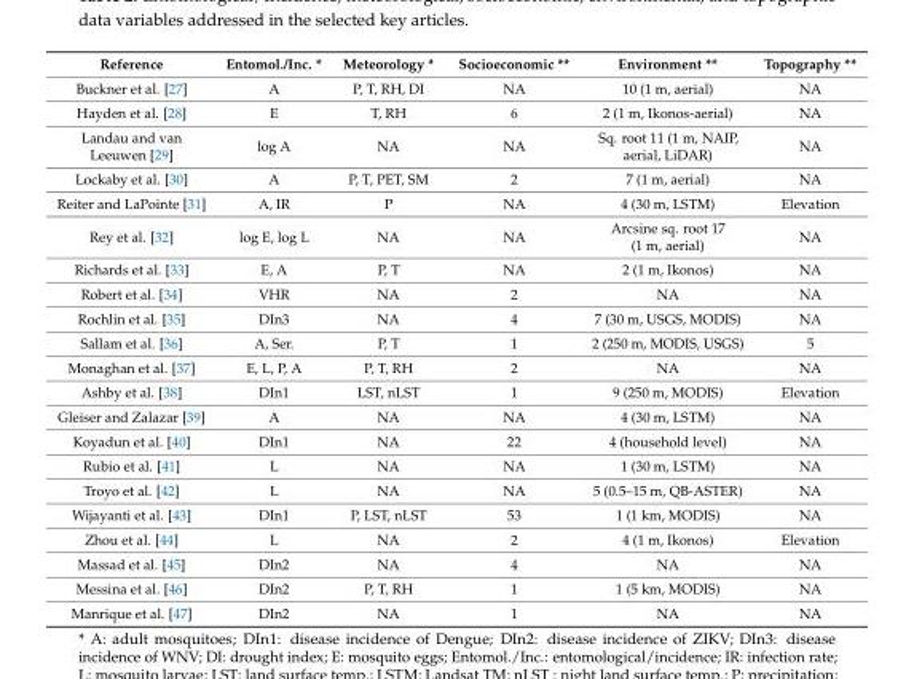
<table><thead><tr><td>Reference</td><td>Entomol./Inc. *</td><td>Meteorology *</td><td>Socioeconomic **</td><td>Environment **</td><td>Topography **</td></tr></thead><tbody><tr><td>Buckner et al. [27]</td><td>A</td><td>P, T, RH, DI</td><td>NA</td><td>10 (1 m, aerial)</td><td>NA</td></tr><tr><td>Hayden et al. [28]</td><td>E</td><td>T, RH</td><td>6</td><td>2 (1 m, Ikonos-aerial)</td><td>NA</td></tr><tr><td>Landau and van Leeuwen [29]</td><td>log A</td><td>NA</td><td>NA</td><td>Sq. root 11 (1 m, NAIP, aerial, LiDAR)</td><td>NA</td></tr><tr><td>Lockaby et al. [30]</td><td>A</td><td>P, T, PET, SM</td><td>2</td><td>7 (1 m, aerial)</td><td>NA</td></tr><tr><td>Reiter and LaPointe [31]</td><td>A, IR</td><td>P</td><td>NA</td><td>4 (30 m, LSTM)</td><td>Elevation</td></tr><tr><td>Rey et al. [32]</td><td>log E, log L</td><td>NA</td><td>NA</td><td>Arcsine sq. root 17 (1 m, aerial)</td><td>NA</td></tr><tr><td>Richards et al. [33]</td><td>E, A</td><td>P, T</td><td>NA</td><td>2 (1 m, Ikonos)</td><td>NA</td></tr><tr><td>Robert et al. [34]</td><td>VHR</td><td>NA</td><td>2</td><td>NA</td><td>NA</td></tr><tr><td>Rochlin et al. [35]</td><td>DIn3</td><td>NA</td><td>4</td><td>7 (30 m, USGS, MODIS)</td><td>NA</td></tr><tr><td>Sallam et al. [36]</td><td>A, Ser.</td><td>P, T</td><td>1</td><td>2 (250 m, MODIS, USGS)</td><td>5</td></tr><tr><td>Monaghan et al. [37]</td><td>E, L, P, A</td><td>P, T, RH</td><td>2</td><td>NA</td><td>NA</td></tr><tr><td>Ashby et al. [38]</td><td>DIn1</td><td>LST, nLST</td><td>1</td><td>9 (250 m, MODIS)</td><td>Elevation</td></tr><tr><td>Gleiser and Zalazar [39]</td><td>A</td><td>NA</td><td>NA</td><td>4 (30 m, LSTM)</td><td>NA</td></tr><tr><td>Koyadun et al. [40]</td><td>DIn1</td><td>NA</td><td>22</td><td>4 (household level)</td><td>NA</td></tr><tr><td>Rubio et al. [41]</td><td>L</td><td>NA</td><td>NA</td><td>1 (30 m, LSTM)</td><td>NA</td></tr><tr><td>Troyo et al. [42]</td><td>L</td><td>NA</td><td>NA</td><td>5 (0.5–15 m, QB-ASTER)</td><td>NA</td></tr><tr><td>Wijayanti et al. [43]</td><td>DIn1</td><td>P, LST, nLST</td><td>53</td><td>1 (1 km, MODIS)</td><td>NA</td></tr><tr><td>Zhou et al. [44]</td><td>L</td><td>NA</td><td>2</td><td>4 (1 m, Ikonos)</td><td>Elevation</td></tr><tr><td>Massad et al. [45]</td><td>DIn2</td><td>NA</td><td>4</td><td>NA</td><td>NA</td></tr><tr><td>Messina et al. [46]</td><td>DIn2</td><td>P, T, RH</td><td>1</td><td>1 (5 km, MODIS)</td><td>NA</td></tr><tr><td>Manrique et al. [47]</td><td>DIn2</td><td>NA</td><td>1</td><td>NA</td><td>NA</td></tr></tbody></table>